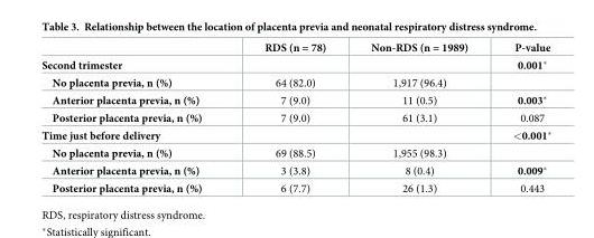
<table><thead><tr><td></td><td>RDS (n = 78)</td><td>Non-RDS (n = 1989)</td><td>P-value</td></tr></thead><tbody><tr><td>Second trimester</td><td></td><td></td><td>0.001*</td></tr><tr><td>No placenta previa, n (%)</td><td>64 (82.0)</td><td>1,917 (96.4)</td><td></td></tr><tr><td>Anterior placenta previa, n (%)</td><td>7 (9.0)</td><td>11 (0.5)</td><td>0.003*</td></tr><tr><td>Posterior placenta previa, n (%)</td><td>7 (9.0)</td><td>61 (3.1)</td><td>0.087</td></tr><tr><td>Time just before delivery</td><td></td><td></td><td>&lt;0.001*</td></tr><tr><td>No placenta previa, n (%)</td><td>69 (88.5)</td><td>1,955 (98.3)</td><td></td></tr><tr><td>Anterior placenta previa, n (%)</td><td>3 (3.8)</td><td>8 (0.4)</td><td>0.009*</td></tr><tr><td>Posterior placenta previa, n (%)</td><td>6 (7.7)</td><td>26 (1.3)</td><td>0.443</td></tr></tbody></table>